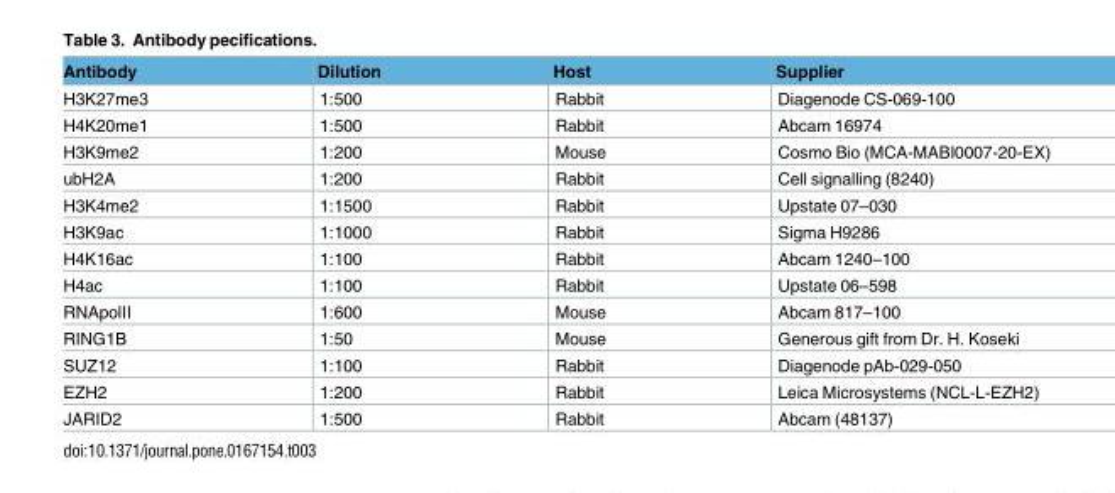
<table><thead><tr><td>Antibody</td><td>Dilution</td><td>Host</td><td>Supplier</td></tr></thead><tbody><tr><td>H3K27me3</td><td>1:500</td><td>Rabbit</td><td>Diagenode CS-069-100</td></tr><tr><td>H4K20me1</td><td>1:500</td><td>Rabbit</td><td>Abcam 16974</td></tr><tr><td>H3K9me2</td><td>1:200</td><td>Mouse</td><td>Cosmo Bio (MCA-MABI0007-20-EX)</td></tr><tr><td>ubH2A</td><td>1:200</td><td>Rabbit</td><td>Cell signalling (8240)</td></tr><tr><td>H3K4me2</td><td>1:1500</td><td>Rabbit</td><td>Upstate 07–030</td></tr><tr><td>H3K9ac</td><td>1:1000</td><td>Rabbit</td><td>Sigma H9286</td></tr><tr><td>H4K16ac</td><td>1:100</td><td>Rabbit</td><td>Abcam 1240–100</td></tr><tr><td>H4ac</td><td>1:100</td><td>Rabbit</td><td>Upstate 06–598</td></tr><tr><td>RNApolII</td><td>1:600</td><td>Mouse</td><td>Abcam 817–100</td></tr><tr><td>RING1B</td><td>1:50</td><td>Mouse</td><td>Generous gift from Dr. H. Koseki</td></tr><tr><td>SUZ12</td><td>1:100</td><td>Rabbit</td><td>Diagenode pAb-029-050</td></tr><tr><td>EZH2</td><td>1:200</td><td>Rabbit</td><td>Leica Microsystems (NCL-L-EZH2)</td></tr><tr><td>JARID2</td><td>1:500</td><td>Rabbit</td><td>Abcam (48137)</td></tr></tbody></table>